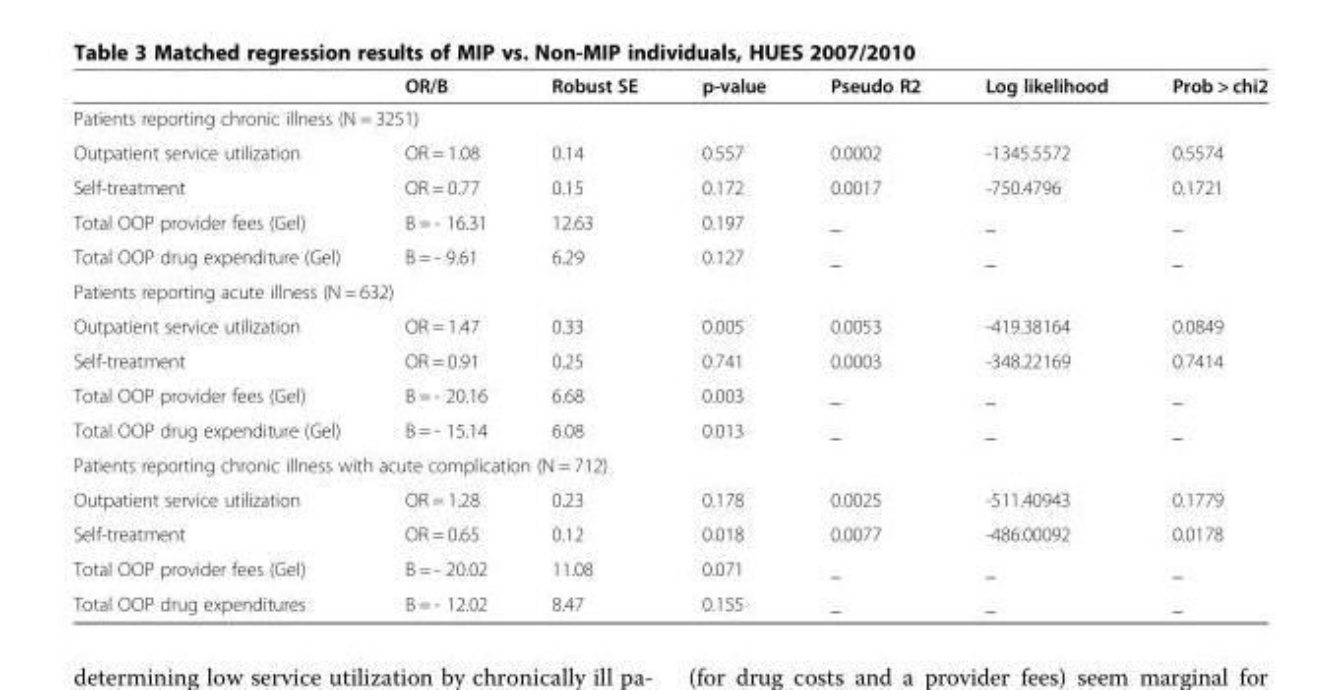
<table><thead><tr><td></td><td>OR/B</td><td>Robust SE</td><td>p-value</td><td>Pseudo R2</td><td>Log likelihood</td><td>Prob &gt; chi2</td></tr></thead><tbody><tr><td colspan="7">Patients reporting chronic illness (N = 3251)</td></tr><tr><td>Outpatient service utilization</td><td>OR = 1.08</td><td>0.14</td><td>0.557</td><td>0.0002</td><td>-1345.5572</td><td>0.5574</td></tr><tr><td>Self-treatment</td><td>OR = 0.77</td><td>0.15</td><td>0.172</td><td>0.0017</td><td>-750.4796</td><td>0.1721</td></tr><tr><td>Total OOP provider fees (Gel)</td><td>B = - 16.31</td><td>12.63</td><td>0.197</td><td>_</td><td>_</td><td>_</td></tr><tr><td>Total OOP drug expenditure (Gel)</td><td>B = - 9.61</td><td>6.29</td><td>0.127</td><td>_</td><td>_</td><td>_</td></tr><tr><td colspan="7">Patients reporting acute illness (N = 632)</td></tr><tr><td>Outpatient service utilization</td><td>OR = 1.47</td><td>0.33</td><td>0.005</td><td>0.0053</td><td>-419.38164</td><td>0.0849</td></tr><tr><td>Self-treatment</td><td>OR = 0.91</td><td>0.25</td><td>0.741</td><td>0.0003</td><td>-348.22169</td><td>0.7414</td></tr><tr><td>Total OOP provider fees (Gel)</td><td>B = - 20.16</td><td>6.68</td><td>0.003</td><td>_</td><td>_</td><td>_</td></tr><tr><td>Total OOP drug expenditure (Gel)</td><td>B = - 15.14</td><td>6.08</td><td>0.013</td><td>_</td><td>_</td><td>_</td></tr><tr><td colspan="7">Patients reporting chronic illness with acute complication (N = 712)</td></tr><tr><td>Outpatient service utilization</td><td>OR = 1.28</td><td>0.23</td><td>0.178</td><td>0.0025</td><td>-511.40943</td><td>0.1779</td></tr><tr><td>Self-treatment</td><td>OR = 0.65</td><td>0.12</td><td>0.018</td><td>0.0077</td><td>-486.00092</td><td>0.0178</td></tr><tr><td>Total OOP provider fees (Gel)</td><td>B = - 20.02</td><td>11.08</td><td>0.071</td><td>_</td><td>_</td><td>_</td></tr><tr><td>Total OOP drug expenditures</td><td>B = - 12.02</td><td>8.47</td><td>0.155</td><td>_</td><td>_</td><td>_</td></tr></tbody></table>